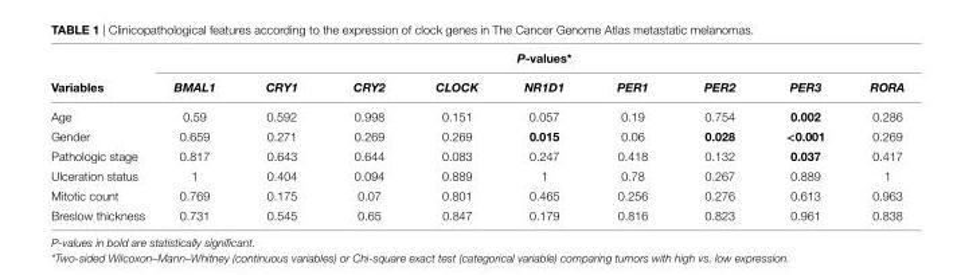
<table><thead><tr><td rowspan="2">Variables</td><td colspan="9">P-values*</td></tr><tr><td>BMAL1</td><td>CRY1</td><td>CRY2</td><td>CLOCK</td><td>NR1D1</td><td>PER1</td><td>PER2</td><td>PER3</td><td>RORA</td></tr></thead><tbody><tr><td>Age</td><td>0.59</td><td>0.592</td><td>0.998</td><td>0.151</td><td>0.057</td><td>0.19</td><td>0.754</td><td>0.002</td><td>0.286</td></tr><tr><td>Gender</td><td>0.659</td><td>0.271</td><td>0.269</td><td>0.269</td><td>0.015</td><td>0.06</td><td>0.028</td><td>&lt;0.001</td><td>0.269</td></tr><tr><td>Pathologic stage</td><td>0.817</td><td>0.643</td><td>0.644</td><td>0.083</td><td>0.247</td><td>0.418</td><td>0.132</td><td>0.037</td><td>0.417</td></tr><tr><td>Ulceration status</td><td>1</td><td>0.404</td><td>0.094</td><td>0.889</td><td>1</td><td>0.78</td><td>0.267</td><td>0.889</td><td>1</td></tr><tr><td>Mitotic count</td><td>0.769</td><td>0.175</td><td>0.07</td><td>0.801</td><td>0.465</td><td>0.256</td><td>0.276</td><td>0.613</td><td>0.963</td></tr><tr><td>Breslow thickness</td><td>0.731</td><td>0.545</td><td>0.65</td><td>0.847</td><td>0.179</td><td>0.816</td><td>0.823</td><td>0.961</td><td>0.838</td></tr></tbody></table>